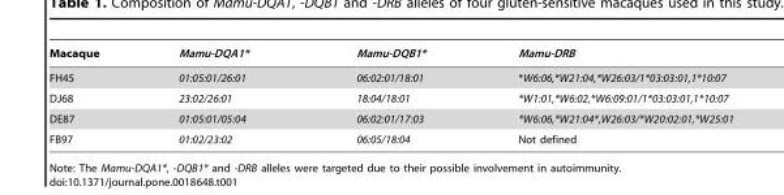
<table><thead><tr><td>Macaque</td><td>Mamu-DQA1*</td><td>Mamu-DQB1*</td><td>Mamu-DRB</td></tr></thead><tbody><tr><td>FH45</td><td>01:05:01/26:01</td><td>06:02:01/18:01</td><td>*W6:06,*W21:04,*W26:03/1*03:03:01,1*10:07</td></tr><tr><td>DJ68</td><td>23:02/26:01</td><td>18:04/18:01</td><td>*W1:01,*W6:02,*W6:09:01/1*03:03:01,1*10:07</td></tr><tr><td>DE87</td><td>01:05:01/05:04</td><td>06:02:01/17:03</td><td>*W6:06,*W21:04*,W26:03/*W20:02:01,*W25:01</td></tr><tr><td>FB97</td><td>01:02/23:02</td><td>06:05/18:04</td><td>Not defined</td></tr></tbody></table>